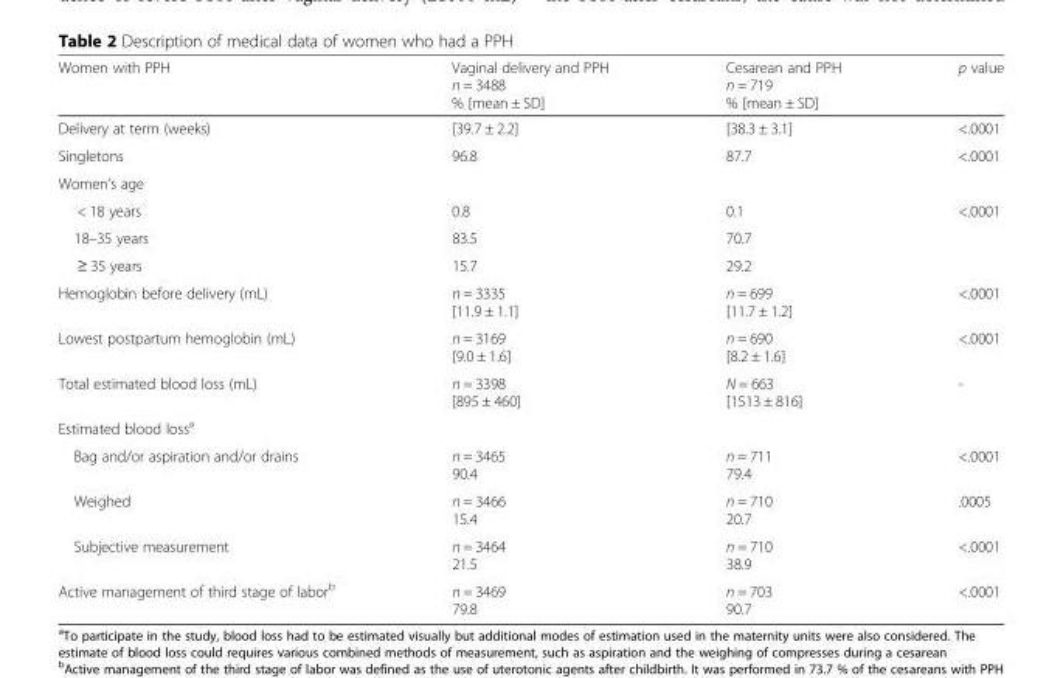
<table><thead><tr><td>Women with PPH</td><td>Vaginal delivery and PPH n = 3488 % [mean ± SD]</td><td>Cesarean and PPH n = 719 % [mean ± SD]</td><td>p value</td></tr></thead><tbody><tr><td>Delivery at term (weeks)</td><td>[39.7 ± 2.2]</td><td>[38.3 ± 3.1]</td><td>&lt;.0001</td></tr><tr><td>Singletons</td><td>96.8</td><td>87.7</td><td>&lt;.0001</td></tr><tr><td colspan="4">Women’s age</td></tr><tr><td>&lt; 18 years</td><td>0.8</td><td>0.1</td><td rowspan="3">&lt;.0001</td></tr><tr><td>18–35 years</td><td>83.5</td><td>70.7</td></tr><tr><td>≥ 35 years</td><td>15.7</td><td>29.2</td></tr><tr><td>Hemoglobin before delivery (mL)</td><td>n = 3335 [11.9 ± 1.1]</td><td>n = 699 [11.7 ± 1.2]</td><td>&lt;.0001</td></tr><tr><td>Lowest postpartum hemoglobin (mL)</td><td>n = 3169 [9.0 ± 1.6]</td><td>n = 690 [8.2 ± 1.6]</td><td>&lt;.0001</td></tr><tr><td>Total estimated blood loss (mL)</td><td>n = 3398 [895 ± 460]</td><td>N = 663 [1513 ± 816]</td><td>-</td></tr><tr><td colspan="4">Estimated blood loss<sup>a</sup></td></tr><tr><td>Bag and/or aspiration and/or drains</td><td>n = 3465 90.4</td><td>n = 711 79.4</td><td>&lt;.0001</td></tr><tr><td>Weighed</td><td>n = 3466 15.4</td><td>n = 710 20.7</td><td>.0005</td></tr><tr><td>Subjective measurement</td><td>n = 3464 21.5</td><td>n = 710 38.9</td><td>&lt;.0001</td></tr><tr><td>Active management of third stage of labor<sup>b</sup></td><td>n = 3469 79.8</td><td>n = 703 90.7</td><td>&lt;.0001</td></tr></tbody></table>